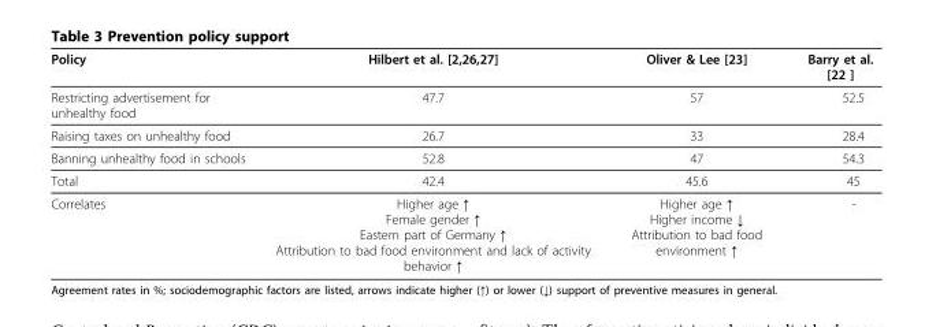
<table><thead><tr><td>Policy</td><td>Hilbert et al. [2,26,27]</td><td>Oliver &amp; Lee [23]</td><td>Barry et al. [22 ]</td></tr></thead><tbody><tr><td>Restricting advertisement for unhealthy food</td><td>47.7</td><td>57</td><td>52.5</td></tr><tr><td>Raising taxes on unhealthy food</td><td>26.7</td><td>33</td><td>28.4</td></tr><tr><td>Banning unhealthy food in schools</td><td>52.8</td><td>47</td><td>54.3</td></tr><tr><td>Total</td><td>42.4</td><td>45.6</td><td>45</td></tr><tr><td>Correlates</td><td>Higher age ↑ Female gender ↑ Eastern part of Germany ↑ Attribution to bad food environment and lack of activity behavior ↑</td><td>Higher age ↑ Higher income ↓ Attribution to bad food environment ↑</td><td>-</td></tr></tbody></table>